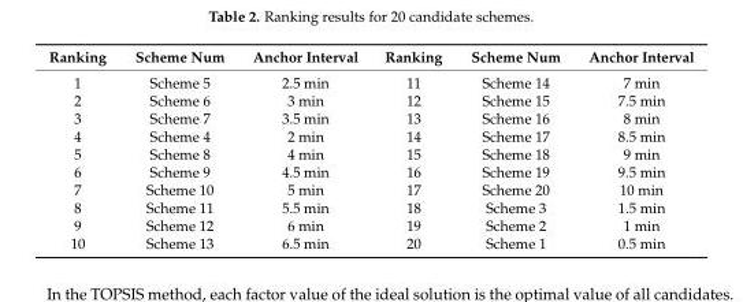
<table><thead><tr><td>Ranking</td><td>Scheme Num</td><td>Anchor Interval</td><td>Ranking</td><td>Scheme Num</td><td>Anchor Interval</td></tr></thead><tbody><tr><td>1</td><td>Scheme 5</td><td>2.5 min</td><td>11</td><td>Scheme 14</td><td>7 min</td></tr><tr><td>2</td><td>Scheme 6</td><td>3 min</td><td>12</td><td>Scheme 15</td><td>7.5 min</td></tr><tr><td>3</td><td>Scheme 7</td><td>3.5 min</td><td>13</td><td>Scheme 16</td><td>8 min</td></tr><tr><td>4</td><td>Scheme 4</td><td>2 min</td><td>14</td><td>Scheme 17</td><td>8.5 min</td></tr><tr><td>5</td><td>Scheme 8</td><td>4 min</td><td>15</td><td>Scheme 18</td><td>9 min</td></tr><tr><td>6</td><td>Scheme 9</td><td>4.5 min</td><td>16</td><td>Scheme 19</td><td>9.5 min</td></tr><tr><td>7</td><td>Scheme 10</td><td>5 min</td><td>17</td><td>Scheme 20</td><td>10 min</td></tr><tr><td>8</td><td>Scheme 11</td><td>5.5 min</td><td>18</td><td>Scheme 3</td><td>1.5 min</td></tr><tr><td>9</td><td>Scheme 12</td><td>6 min</td><td>19</td><td>Scheme 2</td><td>1 min</td></tr><tr><td>10</td><td>Scheme 13</td><td>6.5 min</td><td>20</td><td>Scheme 1</td><td>0.5 min</td></tr></tbody></table>